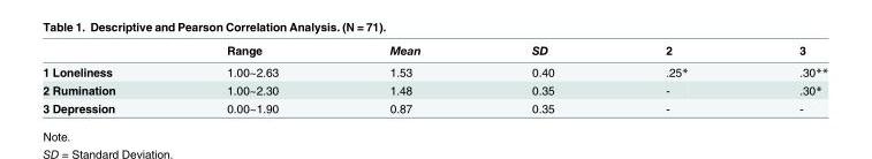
<table><thead><tr><td></td><td>Range</td><td>Mean</td><td>SD</td><td>2</td><td>3</td></tr></thead><tbody><tr><td>1 Loneliness</td><td>1.00~2.63</td><td>1.53</td><td>0.40</td><td>.25*</td><td>.30**</td></tr><tr><td>2 Rumination</td><td>1.00~2.30</td><td>1.48</td><td>0.35</td><td>-</td><td>.30*</td></tr><tr><td>3 Depression</td><td>0.00~1.90</td><td>0.87</td><td>0.35</td><td>-</td><td>-</td></tr></tbody></table>